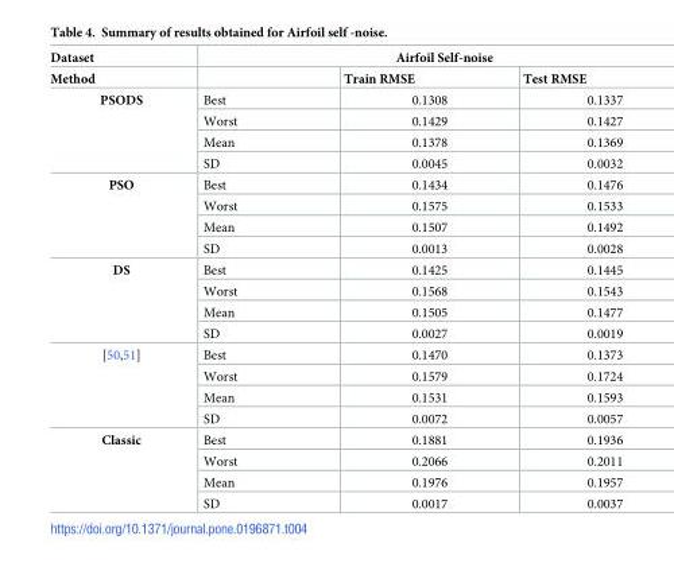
<table><thead><tr><td rowspan="2">Dataset Method</td><td colspan="3">Airfoil Self-noise</td></tr><tr><td></td><td>Train RMSE</td><td>Test RMSE</td></tr></thead><tbody><tr><td rowspan="4">PSODS</td><td>Best</td><td>0.1308</td><td>0.1337</td></tr><tr><td>Worst</td><td>0.1429</td><td>0.1427</td></tr><tr><td>Mean</td><td>0.1378</td><td>0.1369</td></tr><tr><td>SD</td><td>0.0045</td><td>0.0032</td></tr><tr><td rowspan="4">PSO</td><td>Best</td><td>0.1434</td><td>0.1476</td></tr><tr><td>Worst</td><td>0.1575</td><td>0.1533</td></tr><tr><td>Mean</td><td>0.1507</td><td>0.1492</td></tr><tr><td>SD</td><td>0.0013</td><td>0.0028</td></tr><tr><td rowspan="4">DS</td><td>Best</td><td>0.1425</td><td>0.1445</td></tr><tr><td>Worst</td><td>0.1568</td><td>0.1543</td></tr><tr><td>Mean</td><td>0.1505</td><td>0.1477</td></tr><tr><td>SD</td><td>0.0027</td><td>0.0019</td></tr><tr><td rowspan="4">[50,51]</td><td>Best</td><td>0.1470</td><td>0.1373</td></tr><tr><td>Worst</td><td>0.1579</td><td>0.1724</td></tr><tr><td>Mean</td><td>0.1531</td><td>0.1593</td></tr><tr><td>SD</td><td>0.0072</td><td>0.0057</td></tr><tr><td rowspan="4">Classic</td><td>Best</td><td>0.1881</td><td>0.1936</td></tr><tr><td>Worst</td><td>0.2066</td><td>0.2011</td></tr><tr><td>Mean</td><td>0.1976</td><td>0.1957</td></tr><tr><td>SD</td><td>0.0017</td><td>0.0037</td></tr></tbody></table>